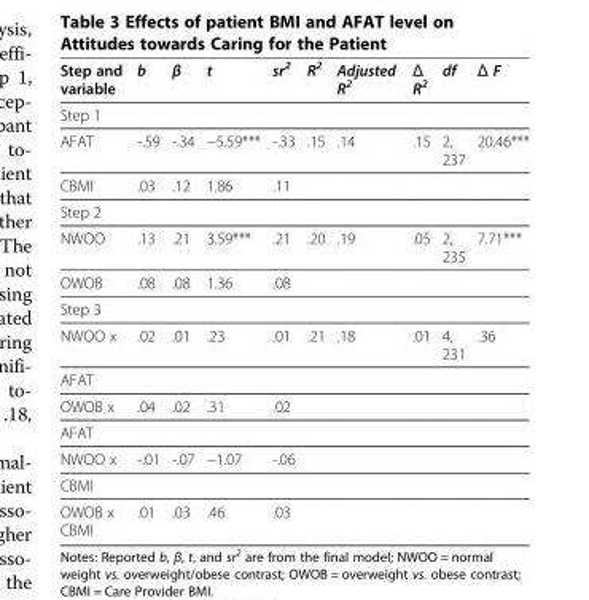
<table><thead><tr><td>Step and variable</td><td>b</td><td>β</td><td>t</td><td>sr<sup>2</sup></td><td>R<sup>2</sup></td><td>Adjusted R<sup>2</sup></td><td>Δ R<sup>2</sup></td><td>df</td><td>Δ F</td></tr></thead><tbody><tr><td colspan="10">Step 1</td></tr><tr><td>AFAT</td><td>-.59</td><td>-.34</td><td>−5.59***</td><td>-.33</td><td>.15</td><td>.14</td><td>.15</td><td>2, 237</td><td>20.46***</td></tr><tr><td>CBMI</td><td>.03</td><td>.12</td><td>1.86</td><td>.11</td><td></td><td></td><td></td><td></td><td></td></tr><tr><td colspan="10">Step 2</td></tr><tr><td>NWOO</td><td>.13</td><td>.21</td><td>3.59***</td><td>.21</td><td>.20</td><td>.19</td><td>.05</td><td>2, 235</td><td>7.71***</td></tr><tr><td>OWOB</td><td>.08</td><td>.08</td><td>1.36</td><td>.08</td><td></td><td></td><td></td><td></td><td></td></tr><tr><td colspan="10">Step 3</td></tr><tr><td>NWOO x</td><td>.02</td><td>.01</td><td>.23</td><td>.01</td><td>.21</td><td>.18</td><td>.01</td><td>4, 231</td><td>.36</td></tr><tr><td colspan="10">AFAT</td></tr><tr><td>OWOB x</td><td>.04</td><td>.02</td><td>.31</td><td>.02</td><td></td><td></td><td></td><td></td><td></td></tr><tr><td colspan="10">AFAT</td></tr><tr><td>NWOO x</td><td>-.01</td><td>-.07</td><td>−1.07</td><td>-.06</td><td></td><td></td><td></td><td></td><td></td></tr><tr><td colspan="10">CBMI</td></tr><tr><td>OWOB x CBMI</td><td>.01</td><td>.03</td><td>.46</td><td>.03</td><td></td><td></td><td></td><td></td><td></td></tr></tbody></table>